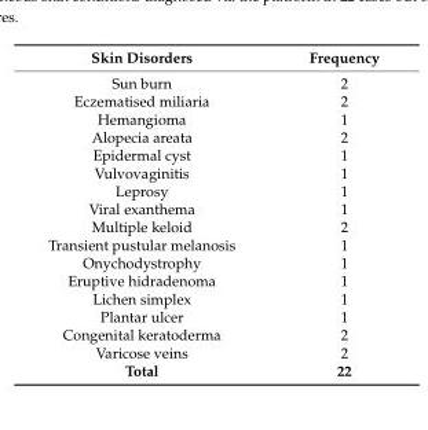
<table><thead><tr><td>Skin Disorders</td><td>Frequency</td></tr></thead><tbody><tr><td>Sun burn</td><td>2</td></tr><tr><td>Eczematised miliaria</td><td>2</td></tr><tr><td>Hemangioma</td><td>1</td></tr><tr><td>Alopecia areata</td><td>2</td></tr><tr><td>Epidermal cyst</td><td>1</td></tr><tr><td>Vulvovaginitis</td><td>1</td></tr><tr><td>Leprosy</td><td>1</td></tr><tr><td>Viral exanthema</td><td>1</td></tr><tr><td>Multiple keloid</td><td>2</td></tr><tr><td>Transient pustular melanosis</td><td>1</td></tr><tr><td>Onychodystrophy</td><td>1</td></tr><tr><td>Eruptive hidradenoma</td><td>1</td></tr><tr><td>Lichen simplex</td><td>1</td></tr><tr><td>Plantar ulcer</td><td>1</td></tr><tr><td>Congenital keratoderma</td><td>2</td></tr><tr><td>Varicose veins</td><td>2</td></tr><tr><td>Total</td><td>22</td></tr></tbody></table>